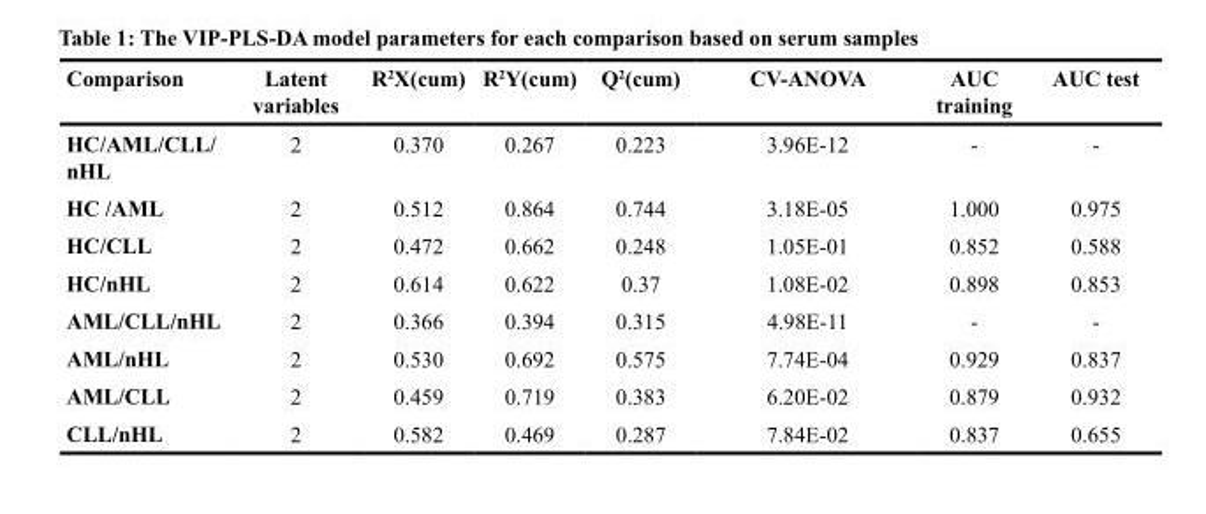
<table><thead><tr><td>Comparison</td><td>Latent variables</td><td>R<sup>2</sup>X(cum)</td><td>R<sup>2</sup>Y(cum)</td><td>Q<sup>2</sup>(cum)</td><td>CV-ANOVA</td><td>AUC training</td><td>AUC test</td></tr></thead><tbody><tr><td>HC/AML/CLL/ nHL</td><td>2</td><td>0.370</td><td>0.267</td><td>0.223</td><td>3.96E-12</td><td>-</td><td>-</td></tr><tr><td>HC /AML</td><td>2</td><td>0.512</td><td>0.864</td><td>0.744</td><td>3.18E-05</td><td>1.000</td><td>0.975</td></tr><tr><td>HC/CLL</td><td>2</td><td>0.472</td><td>0.662</td><td>0.248</td><td>1.05E-01</td><td>0.852</td><td>0.588</td></tr><tr><td>HC/nHL</td><td>2</td><td>0.614</td><td>0.622</td><td>0.37</td><td>1.08E-02</td><td>0.898</td><td>0.853</td></tr><tr><td>AML/CLL/nHL</td><td>2</td><td>0.366</td><td>0.394</td><td>0.315</td><td>4.98E-11</td><td>-</td><td>-</td></tr><tr><td>AML/nHL</td><td>2</td><td>0.530</td><td>0.692</td><td>0.575</td><td>7.74E-04</td><td>0.929</td><td>0.837</td></tr><tr><td>AML/CLL</td><td>2</td><td>0.459</td><td>0.719</td><td>0.383</td><td>6.20E-02</td><td>0.879</td><td>0.932</td></tr><tr><td>CLL/nHL</td><td>2</td><td>0.582</td><td>0.469</td><td>0.287</td><td>7.84E-02</td><td>0.837</td><td>0.655</td></tr></tbody></table>